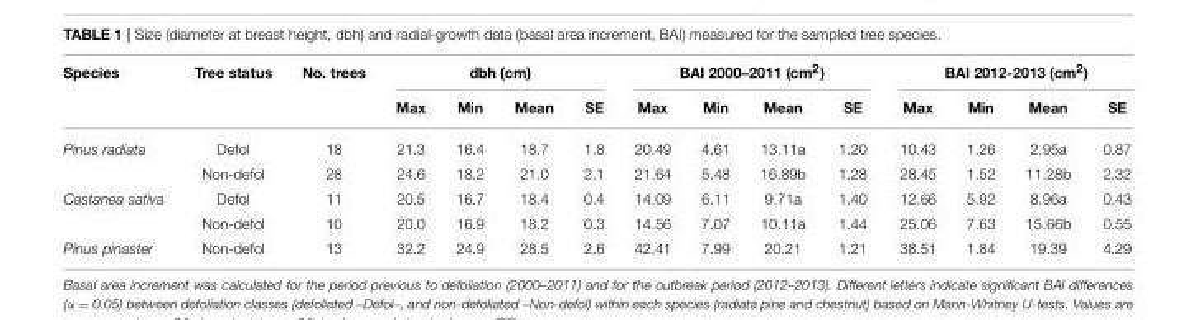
<table><thead><tr><td rowspan="2">Species</td><td rowspan="2">Tree status</td><td rowspan="2">No. trees</td><td colspan="4">dbh (cm)</td><td colspan="4">BAI 2000–2011 (cm<sup>2</sup>)</td><td colspan="4">BAI 2012-2013 (cm<sup>2</sup>)</td></tr><tr><td>Max</td><td>Min</td><td>Mean</td><td>SE</td><td>Max</td><td>Min</td><td>Mean</td><td>SE</td><td>Max</td><td>Min</td><td>Mean</td><td>SE</td></tr></thead><tbody><tr><td rowspan="2">Pinus radiata</td><td>Defol</td><td>18</td><td>21.3</td><td>16.4</td><td>18.7</td><td>1.8</td><td>20.49</td><td>4.61</td><td>13.11a</td><td>1.20</td><td>10.43</td><td>1.26</td><td>2.95a</td><td>0.87</td></tr><tr><td>Non-defol</td><td>28</td><td>24.6</td><td>18.2</td><td>21.0</td><td>2.1</td><td>21.64</td><td>5.48</td><td>16.89b</td><td>1.28</td><td>28.45</td><td>1.52</td><td>11.28b</td><td>2.32</td></tr><tr><td rowspan="2">Castanea sativa</td><td>Defol</td><td>11</td><td>20.5</td><td>16.7</td><td>18.4</td><td>0.4</td><td>14.09</td><td>6.11</td><td>9.71a</td><td>1.40</td><td>12.66</td><td>5.92</td><td>8.96a</td><td>0.43</td></tr><tr><td>Non-defol</td><td>10</td><td>20.0</td><td>16.9</td><td>18.2</td><td>0.3</td><td>14.56</td><td>7.07</td><td>10.11a</td><td>1.44</td><td>25.06</td><td>7.63</td><td>15.66b</td><td>0.55</td></tr><tr><td>Pinus pinaster</td><td>Non-defol</td><td>13</td><td>32.2</td><td>24.9</td><td>28.5</td><td>2.6</td><td>42.41</td><td>7.99</td><td>20.21</td><td>1.21</td><td>38.51</td><td>1.84</td><td>19.39</td><td>4.29</td></tr></tbody></table>